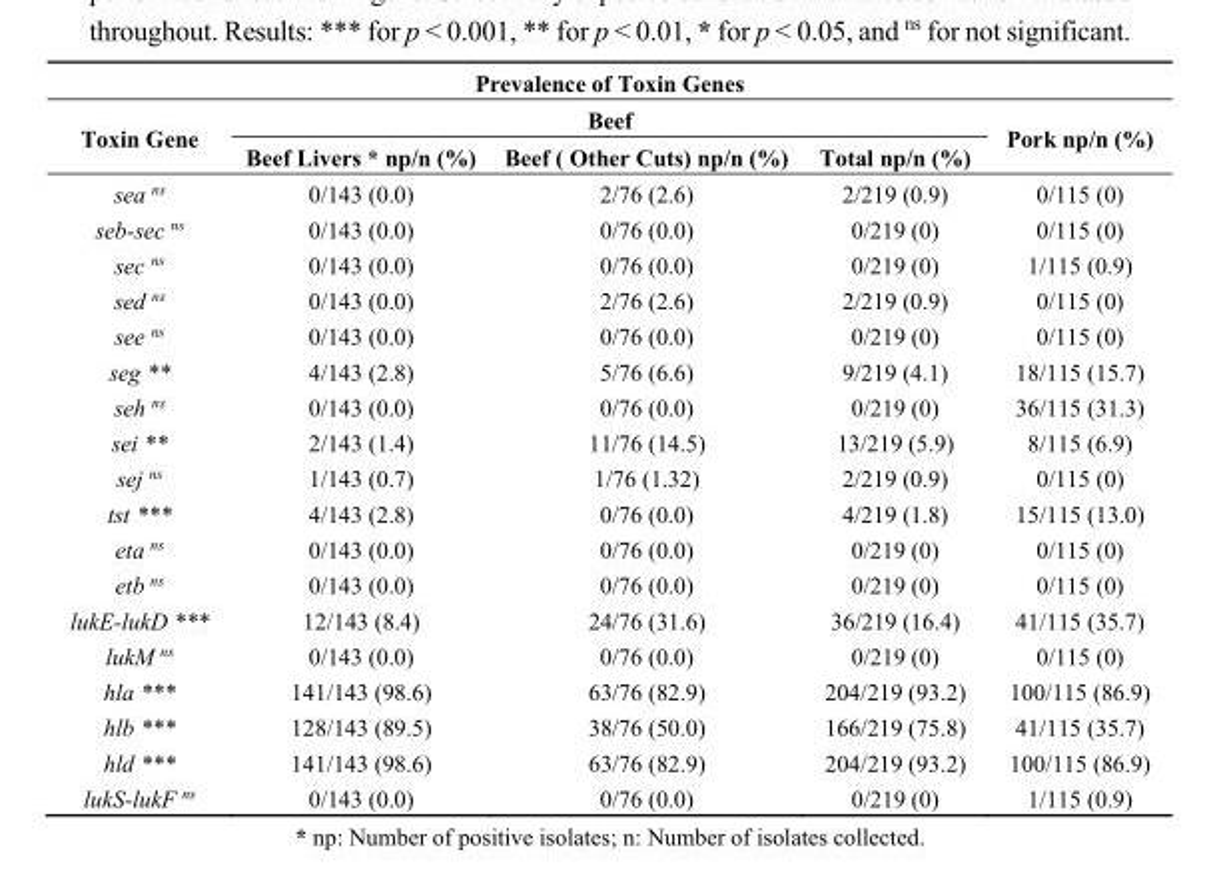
<table><thead><tr><td colspan="5">Prevalence of Toxin Genes</td></tr><tr><td rowspan="2">Toxin Gene</td><td colspan="3">Beef</td><td rowspan="2">Pork np/n (%)</td></tr><tr><td>Beef Livers * np/n (%)</td><td>Beef ( Other Cuts) np/n (%)</td><td>Total np/n (%)</td></tr></thead><tbody><tr><td>sea <sup>ns</sup></td><td>0/143 (0.0)</td><td>2/76 (2.6)</td><td>2/219 (0.9)</td><td>0/115 (0)</td></tr><tr><td>seb-sec <sup>ns</sup></td><td>0/143 (0.0)</td><td>0/76 (0.0)</td><td>0/219 (0)</td><td>0/115 (0)</td></tr><tr><td>sec <sup>ns</sup></td><td>0/143 (0.0)</td><td>0/76 (0.0)</td><td>0/219 (0)</td><td>1/115 (0.9)</td></tr><tr><td>sed <sup>ns</sup></td><td>0/143 (0.0)</td><td>2/76 (2.6)</td><td>2/219 (0.9)</td><td>0/115 (0)</td></tr><tr><td>see <sup>ns</sup></td><td>0/143 (0.0)</td><td>0/76 (0.0)</td><td>0/219 (0)</td><td>0/115 (0)</td></tr><tr><td>seg **</td><td>4/143 (2.8)</td><td>5/76 (6.6)</td><td>9/219 (4.1)</td><td>18/115 (15.7)</td></tr><tr><td>seh <sup>ns</sup></td><td>0/143 (0.0)</td><td>0/76 (0.0)</td><td>0/219 (0)</td><td>36/115 (31.3)</td></tr><tr><td>sei **</td><td>2/143 (1.4)</td><td>11/76 (14.5)</td><td>13/219 (5.9)</td><td>8/115 (6.9)</td></tr><tr><td>sej <sup>ns</sup></td><td>1/143 (0.7)</td><td>1/76 (1.32)</td><td>2/219 (0.9)</td><td>0/115 (0)</td></tr><tr><td>tst ***</td><td>4/143 (2.8)</td><td>0/76 (0.0)</td><td>4/219 (1.8)</td><td>15/115 (13.0)</td></tr><tr><td>eta <sup>ns</sup></td><td>0/143 (0.0)</td><td>0/76 (0.0)</td><td>0/219 (0)</td><td>0/115 (0)</td></tr><tr><td>etb <sup>ns</sup></td><td>0/143 (0.0)</td><td>0/76 (0.0)</td><td>0/219 (0)</td><td>0/115 (0)</td></tr><tr><td>lukE-lukD ***</td><td>12/143 (8.4)</td><td>24/76 (31.6)</td><td>36/219 (16.4)</td><td>41/115 (35.7)</td></tr><tr><td>lukM <sup>ns</sup></td><td>0/143 (0.0)</td><td>0/76 (0.0)</td><td>0/219 (0)</td><td>0/115 (0)</td></tr><tr><td>hla ***</td><td>141/143 (98.6)</td><td>63/76 (82.9)</td><td>204/219 (93.2)</td><td>100/115 (86.9)</td></tr><tr><td>hlb ***</td><td>128/143 (89.5)</td><td>38/76 (50.0)</td><td>166/219 (75.8)</td><td>41/115 (35.7)</td></tr><tr><td>hld ***</td><td>141/143 (98.6)</td><td>63/76 (82.9)</td><td>204/219 (93.2)</td><td>100/115 (86.9)</td></tr><tr><td>lukS-lukF <sup>ns</sup></td><td>0/143 (0.0)</td><td>0/76 (0.0)</td><td>0/219 (0)</td><td>1/115 (0.9)</td></tr></tbody></table>